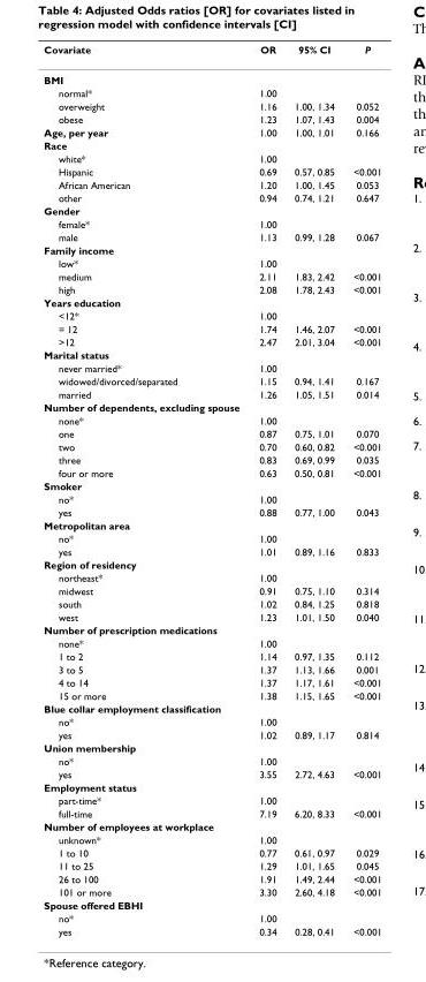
<table><thead><tr><td>Covariate</td><td>OR</td><td>95% CI</td><td>P</td></tr></thead><tbody><tr><td colspan="4">BMI</td></tr><tr><td>normal*</td><td>1.00</td><td></td><td></td></tr><tr><td>overweight</td><td>1.16</td><td>1.00, 1.34</td><td>0.052</td></tr><tr><td>obese</td><td>1.23</td><td>1.07, 1.43</td><td>0.004</td></tr><tr><td>Age, per year</td><td>1.00</td><td>1.00, 1.01</td><td>0.166</td></tr><tr><td colspan="4">Race</td></tr><tr><td>white*</td><td>1.00</td><td></td><td></td></tr><tr><td>Hispanic</td><td>0.69</td><td>0.57, 0.85</td><td>&lt;0.001</td></tr><tr><td>African American</td><td>1.20</td><td>1.00, 1.45</td><td>0.053</td></tr><tr><td>other</td><td>0.94</td><td>0.74, 1.21</td><td>0.647</td></tr><tr><td colspan="4">Gender</td></tr><tr><td>female*</td><td>1.00</td><td></td><td></td></tr><tr><td>male</td><td>1.13</td><td>0.99, 1.28</td><td>0.067</td></tr><tr><td colspan="4">Family income</td></tr><tr><td>low*</td><td>1.00</td><td></td><td></td></tr><tr><td>medium</td><td>2.11</td><td>1.83, 2.42</td><td>&lt;0.001</td></tr><tr><td>high</td><td>2.08</td><td>1.78, 2.43</td><td>&lt;0.001</td></tr><tr><td colspan="4">Years education</td></tr><tr><td>&lt;12*</td><td>1.00</td><td></td><td></td></tr><tr><td>= 12</td><td>1.74</td><td>1.46, 2.07</td><td>&lt;0.001</td></tr><tr><td>&gt;12</td><td>2.47</td><td>2.01, 3.04</td><td>&lt;0.001</td></tr><tr><td colspan="4">Marital status</td></tr><tr><td>never married*</td><td>1.00</td><td></td><td></td></tr><tr><td>widowed/divorced/separated</td><td>1.15</td><td>0.94, 1.41</td><td>0.167</td></tr><tr><td>married</td><td>1.26</td><td>1.05, 1.51</td><td>0.014</td></tr><tr><td colspan="4">Number of dependents, excluding spouse</td></tr><tr><td>none*</td><td>1.00</td><td></td><td></td></tr><tr><td>one</td><td>0.87</td><td>0.75, 1.01</td><td>0.070</td></tr><tr><td>two</td><td>0.70</td><td>0.60, 0.82</td><td>&lt;0.001</td></tr><tr><td>three</td><td>0.83</td><td>0.69, 0.99</td><td>0.035</td></tr><tr><td>four or more</td><td>0.63</td><td>0.50, 0.81</td><td>&lt;0.001</td></tr><tr><td colspan="4">Smoker</td></tr><tr><td>no*</td><td>1.00</td><td></td><td></td></tr><tr><td>yes</td><td>0.88</td><td>0.77, 1.00</td><td>0.043</td></tr><tr><td colspan="4">Metropolitan area</td></tr><tr><td>no*</td><td>1.00</td><td></td><td></td></tr><tr><td>yes</td><td>1.01</td><td>0.89, 1.16</td><td>0.833</td></tr><tr><td colspan="4">Region of residency</td></tr><tr><td>northeast*</td><td>1.00</td><td></td><td></td></tr><tr><td>midwest</td><td>0.91</td><td>0.75, 1.10</td><td>0.314</td></tr><tr><td>south</td><td>1.02</td><td>0.84, 1.25</td><td>0.818</td></tr><tr><td>west</td><td>1.23</td><td>1.01, 1.50</td><td>0.040</td></tr><tr><td colspan="4">Number of prescription medications</td></tr><tr><td>none*</td><td>1.00</td><td></td><td></td></tr><tr><td>1 to 2</td><td>1.14</td><td>0.97, 1.35</td><td>0.112</td></tr><tr><td>3 to 5</td><td>1.37</td><td>1.13, 1.66</td><td>0.001</td></tr><tr><td>4 to 14</td><td>1.37</td><td>1.17, 1.61</td><td>&lt;0.001</td></tr><tr><td>15 or more</td><td>1.38</td><td>1.15, 1.65</td><td>&lt;0.001</td></tr><tr><td colspan="4">Blue collar employment classification</td></tr><tr><td>no*</td><td>1.00</td><td></td><td></td></tr><tr><td>yes</td><td>1.02</td><td>0.89, 1.17</td><td>0.814</td></tr><tr><td colspan="4">Union membership</td></tr><tr><td>no*</td><td>1.00</td><td></td><td></td></tr><tr><td>yes</td><td>3.55</td><td>2.72, 4.63</td><td>&lt;0.001</td></tr><tr><td colspan="4">Employment status</td></tr><tr><td>part-time*</td><td>1.00</td><td></td><td></td></tr><tr><td>full-time</td><td>7.19</td><td>6.20, 8.33</td><td>&lt;0.001</td></tr><tr><td colspan="4">Number of employees at workplace</td></tr><tr><td>unknown*</td><td>1.00</td><td></td><td></td></tr><tr><td>1 to 10</td><td>0.77</td><td>0.61, 0.97</td><td>0.029</td></tr><tr><td>11 to 25</td><td>1.29</td><td>1.01, 1.65</td><td>0.045</td></tr><tr><td>26 to 100</td><td>1.91</td><td>1.49, 2.44</td><td>&lt;0.001</td></tr><tr><td>101 or more</td><td>3.30</td><td>2.60, 4.18</td><td>&lt;0.001</td></tr><tr><td colspan="4">Spouse offered EBHI</td></tr><tr><td>no*</td><td>1.00</td><td></td><td></td></tr><tr><td>yes</td><td>0.34</td><td>0.28, 0.41</td><td>&lt;0.001</td></tr></tbody></table>